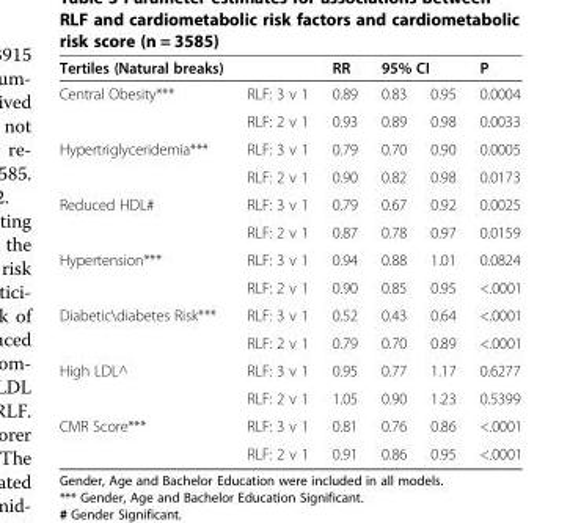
<table><thead><tr><td rowspan="2">Tertiles (Natural breaks) Central Obesity***</td><td rowspan="2">RLF: 3 v 1</td><td rowspan="2">RR 0.89</td><td colspan="2">95% CI</td><td rowspan="2">P 0.0004</td></tr><tr><td>0.83</td><td>0.95</td></tr></thead><tbody><tr><td></td><td>RLF: 2 v 1</td><td>0.93</td><td>0.89</td><td>0.98</td><td>0.0033</td></tr><tr><td rowspan="2">Hypertriglyceridemia***</td><td>RLF: 3 v 1</td><td>0.79</td><td>0.70</td><td>0.90</td><td>0.0005</td></tr><tr><td>RLF: 2 v 1</td><td>0.90</td><td>0.82</td><td>0.98</td><td>0.0173</td></tr><tr><td rowspan="2">Reduced HDL#</td><td>RLF: 3 v 1</td><td>0.79</td><td>0.67</td><td>0.92</td><td>0.0025</td></tr><tr><td>RLF: 2 v 1</td><td>0.87</td><td>0.78</td><td>0.97</td><td>0.0159</td></tr><tr><td rowspan="2">Hypertension***</td><td>RLF: 3 v 1</td><td>0.94</td><td>0.88</td><td>1.01</td><td>0.0824</td></tr><tr><td>RLF: 2 v 1</td><td>0.90</td><td>0.85</td><td>0.95</td><td>&lt;.0001</td></tr><tr><td rowspan="2">Diabetic\diabetes Risk***</td><td>RLF: 3 v 1</td><td>0.52</td><td>0.43</td><td>0.64</td><td>&lt;.0001</td></tr><tr><td>RLF: 2 v 1</td><td>0.79</td><td>0.70</td><td>0.89</td><td>&lt;.0001</td></tr><tr><td rowspan="2">High LDL^</td><td>RLF: 3 v 1</td><td>0.95</td><td>0.77</td><td>1.17</td><td>0.6277</td></tr><tr><td>RLF: 2 v 1</td><td>1.05</td><td>0.90</td><td>1.23</td><td>0.5399</td></tr><tr><td rowspan="2">CMR Score***</td><td>RLF: 3 v 1</td><td>0.81</td><td>0.76</td><td>0.86</td><td>&lt;.0001</td></tr><tr><td>RLF: 2 v 1</td><td>0.91</td><td>0.86</td><td>0.95</td><td>&lt;.0001</td></tr></tbody></table>